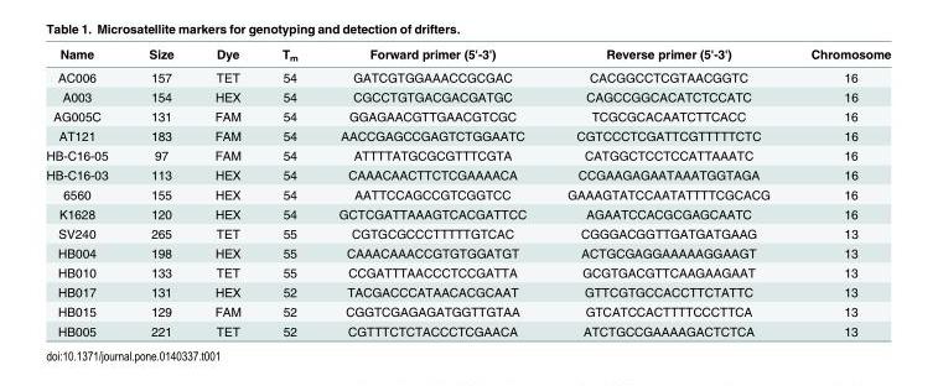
<table><thead><tr><td>Name</td><td>Size</td><td>Dye</td><td>T<sub>m</sub></td><td>Forward primer (5&#x27;-3&#x27;)</td><td>Reverse primer (5&#x27;-3&#x27;)</td><td>Chromosome</td></tr></thead><tbody><tr><td>AC006</td><td>157</td><td>TET</td><td>54</td><td>GATCGTGGAAACCGCGAC</td><td>CACGGCCTCGTAACGGTC</td><td>16</td></tr><tr><td>A003</td><td>154</td><td>HEX</td><td>54</td><td>CGCCTGTGACGACGATGC</td><td>CAGCCGGCACATCTCCATC</td><td>16</td></tr><tr><td>AG005C</td><td>131</td><td>FAM</td><td>54</td><td>GGAGAACGTTGAACGTCGC</td><td>TCGCGCACAATCTTCACC</td><td>16</td></tr><tr><td>AT121</td><td>183</td><td>FAM</td><td>54</td><td>AACCGAGCCGAGTCTGGAATC</td><td>CGTCCCTCGATTCGTTTTTCTC</td><td>16</td></tr><tr><td>HB-C16-05</td><td>97</td><td>FAM</td><td>54</td><td>ATTTTATGCGCGTTTCGTA</td><td>CATGGCTCCTCCATTAAATC</td><td>16</td></tr><tr><td>HB-C16-03</td><td>113</td><td>HEX</td><td>54</td><td>CAAACAACTTCTCGAAAACA</td><td>CCGAAGAGAATAAATGGTAGA</td><td>16</td></tr><tr><td>6560</td><td>155</td><td>HEX</td><td>54</td><td>AATTCCAGCCGTCGGTCC</td><td>GAAAGTATCCAATATTTTCGCACG</td><td>16</td></tr><tr><td>K1628</td><td>120</td><td>HEX</td><td>54</td><td>GCTCGATTAAAGTCACGATTCC</td><td>AGAATCCACGCGAGCAATC</td><td>16</td></tr><tr><td>SV240</td><td>265</td><td>TET</td><td>55</td><td>CGTGCGCCCTTTTTGTCAC</td><td>CGGGACGGTTGATGATGAAG</td><td>13</td></tr><tr><td>HB004</td><td>198</td><td>HEX</td><td>55</td><td>CAAACAAACCGTGTGGATGT</td><td>ACTGCGAGGAAAAAGGAAGT</td><td>13</td></tr><tr><td>HB010</td><td>133</td><td>TET</td><td>55</td><td>CCGATTTAACCCTCCGATTA</td><td>GCGTGACGTTCAAGAAGAAT</td><td>13</td></tr><tr><td>HB017</td><td>131</td><td>HEX</td><td>52</td><td>TACGACCCATAACACGCAAT</td><td>GTTCGTGCCACCTTCTATTC</td><td>13</td></tr><tr><td>HB015</td><td>129</td><td>FAM</td><td>52</td><td>CGGTCGAGAGATGGTTGTAA</td><td>GTCATCCACTTTTCCCTTCA</td><td>13</td></tr><tr><td>HB005</td><td>221</td><td>TET</td><td>52</td><td>CGTTTCTCTACCCTCGAACA</td><td>ATCTGCCGAAAAGACTCTCA</td><td>13</td></tr></tbody></table>